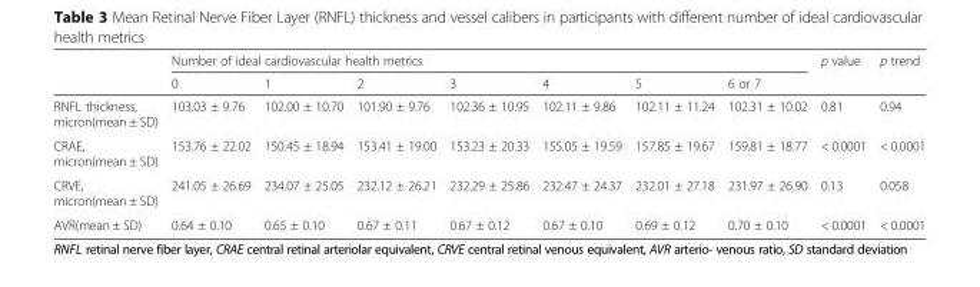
<table><thead><tr><td rowspan="2"></td><td colspan="7">Number of ideal cardiovascular health metrics</td><td rowspan="2">p value</td><td rowspan="2">p trend</td></tr><tr><td>0</td><td>1</td><td>2</td><td>3</td><td>4</td><td>5</td><td>6 or 7</td></tr></thead><tbody><tr><td>RNFL thickness, micron(mean ± SD)</td><td>103.03 ± 9.76</td><td>102.00 ± 10.70</td><td>101.90 ± 9.76</td><td>102.36 ± 10.95</td><td>102.11 ± 9.86</td><td>102.11 ± 11.24</td><td>102.31 ± 10.02</td><td>0.81</td><td>0.94</td></tr><tr><td>CRAE, micron(mean ± SD)</td><td>153.76 ± 22.02</td><td>150.45 ± 18.94</td><td>153.41 ± 19.00</td><td>153.23 ± 20.33</td><td>155.05 ± 19.59</td><td>157.85 ± 19.67</td><td>159.81 ± 18.77</td><td>&lt; 0.0001</td><td>&lt; 0.0001</td></tr><tr><td>CRVE, micron(mean ± SD)</td><td>241.05 ± 26.69</td><td>234.07 ± 25.05</td><td>232.12 ± 26.21</td><td>232.29 ± 25.86</td><td>232.47 ± 24.37</td><td>232.01 ± 27.18</td><td>231.97 ± 26.90</td><td>0.13</td><td>0.058</td></tr><tr><td>AVR(mean ± SD)</td><td>0.64 ± 0.10</td><td>0.65 ± 0.10</td><td>0.67 ± 0.11</td><td>0.67 ± 0.12</td><td>0.67 ± 0.10</td><td>0.69 ± 0.12</td><td>0.70 ± 0.10</td><td>&lt; 0.0001</td><td>&lt; 0.0001</td></tr></tbody></table>